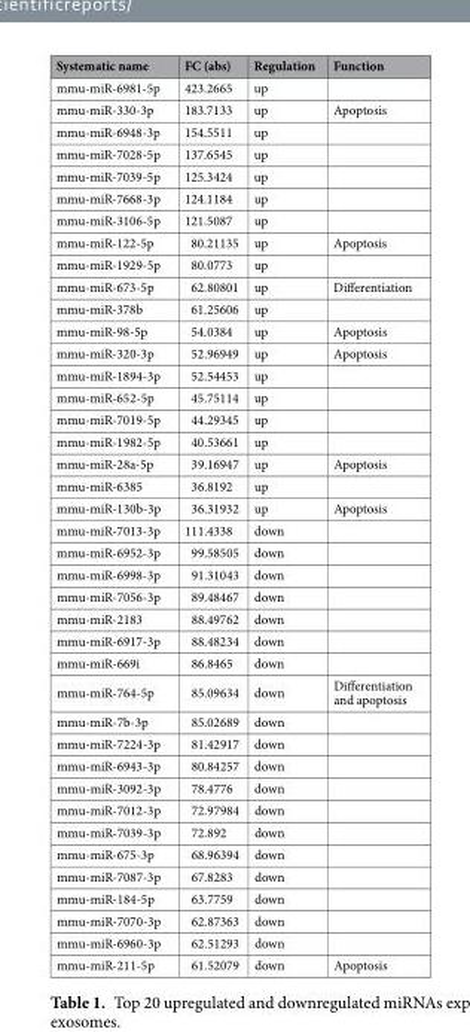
<table><thead><tr><td>Systematic name</td><td>FC (abs)</td><td>Regulation</td><td>Function</td></tr></thead><tbody><tr><td>mmu-miR-6981-5p</td><td>423.2665</td><td>up</td><td></td></tr><tr><td>mmu-miR-330-3p</td><td>183.7133</td><td>up</td><td>Apoptosis</td></tr><tr><td>mmu-miR-6948-3p</td><td>154.5511</td><td>up</td><td></td></tr><tr><td>mmu-miR-7028-5p</td><td>137.6545</td><td>up</td><td></td></tr><tr><td>mmu-miR-7039-5p</td><td>125.3424</td><td>up</td><td></td></tr><tr><td>mmu-miR-7668-3p</td><td>124.1184</td><td>up</td><td></td></tr><tr><td>mmu-miR-3106-5p</td><td>121.5087</td><td>up</td><td></td></tr><tr><td>mmu-miR-122-5p</td><td>80.21135</td><td>up</td><td>Apoptosis</td></tr><tr><td>mmu-miR-1929-5p</td><td>80.0773</td><td>up</td><td></td></tr><tr><td>mmu-miR-673-5p</td><td>62.80801</td><td>up</td><td>Differentiation</td></tr><tr><td>mmu-miR-378b</td><td>61.25606</td><td>up</td><td></td></tr><tr><td>mmu-miR-98-5p</td><td>54.0384</td><td>up</td><td>Apoptosis</td></tr><tr><td>mmu-miR-320-3p</td><td>52.96949</td><td>up</td><td>Apoptosis</td></tr><tr><td>mmu-miR-1894-3p</td><td>52.54453</td><td>up</td><td></td></tr><tr><td>mmu-miR-652-5p</td><td>45.75114</td><td>up</td><td></td></tr><tr><td>mmu-miR-7019-5p</td><td>44.29345</td><td>up</td><td></td></tr><tr><td>mmu-miR-1982-5p</td><td>40.53661</td><td>up</td><td></td></tr><tr><td>mmu-miR-28a-5p</td><td>39.16947</td><td>up</td><td>Apoptosis</td></tr><tr><td>mmu-miR-6385</td><td>36.8192</td><td>up</td><td></td></tr><tr><td>mmu-miR-130b-3p</td><td>36.31932</td><td>up</td><td>Apoptosis</td></tr><tr><td>mmu-miR-7013-3p</td><td>111.4338</td><td>down</td><td></td></tr><tr><td>mmu-miR-6952-3p</td><td>99.58505</td><td>down</td><td></td></tr><tr><td>mmu-miR-6998-3p</td><td>91.31043</td><td>down</td><td></td></tr><tr><td>mmu-miR-7056-3p</td><td>89.48467</td><td>down</td><td></td></tr><tr><td>mmu-miR-2183</td><td>88.49762</td><td>down</td><td></td></tr><tr><td>mmu-miR-6917-3p</td><td>88.48234</td><td>down</td><td></td></tr><tr><td>mmu-miR-669i</td><td>86.8465</td><td>down</td><td></td></tr><tr><td>mmu-miR-764-5p</td><td>85.09634</td><td>down</td><td>Differentiation and apoptosis</td></tr><tr><td>mmu-miR-7b-3p</td><td>85.02689</td><td>down</td><td></td></tr><tr><td>mmu-miR-7224-3p</td><td>81.42917</td><td>down</td><td></td></tr><tr><td>mmu-miR-6943-3p</td><td>80.84257</td><td>down</td><td></td></tr><tr><td>mmu-miR-3092-3p</td><td>78.4776</td><td>down</td><td></td></tr><tr><td>mmu-miR-7012-3p</td><td>72.97984</td><td>down</td><td></td></tr><tr><td>mmu-miR-7039-3p</td><td>72.892</td><td>down</td><td></td></tr><tr><td>mmu-miR-675-3p</td><td>68.96394</td><td>down</td><td></td></tr><tr><td>mmu-miR-7087-3p</td><td>67.8283</td><td>down</td><td></td></tr><tr><td>mmu-miR-184-5p</td><td>63.7759</td><td>down</td><td></td></tr><tr><td>mmu-miR-7070-3p</td><td>62.87363</td><td>down</td><td></td></tr><tr><td>mmu-miR-6960-3p</td><td>62.51293</td><td>down</td><td></td></tr><tr><td>mmu-miR-211-5p</td><td>61.52079</td><td>down</td><td>Apoptosis</td></tr></tbody></table>